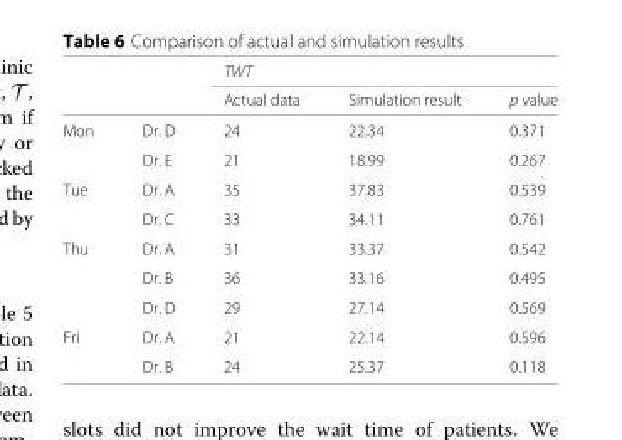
<table><thead><tr><td rowspan="2"></td><td rowspan="2"></td><td colspan="3">TWT</td></tr><tr><td>Actual data</td><td>Simulation result</td><td>p value</td></tr></thead><tbody><tr><td rowspan="2">Mon</td><td>Dr. D</td><td>24</td><td>22.34</td><td>0.371</td></tr><tr><td>Dr. E</td><td>21</td><td>18.99</td><td>0.267</td></tr><tr><td rowspan="2">Tue</td><td>Dr. A</td><td>35</td><td>37.83</td><td>0.539</td></tr><tr><td>Dr. C</td><td>33</td><td>34.11</td><td>0.761</td></tr><tr><td rowspan="3">Thu</td><td>Dr. A</td><td>31</td><td>33.37</td><td>0.542</td></tr><tr><td>Dr. B</td><td>36</td><td>33.16</td><td>0.495</td></tr><tr><td>Dr. D</td><td>29</td><td>27.14</td><td>0.569</td></tr><tr><td rowspan="2">Fri</td><td>Dr. A</td><td>21</td><td>22.14</td><td>0.596</td></tr><tr><td>Dr. B</td><td>24</td><td>25.37</td><td>0.118</td></tr></tbody></table>